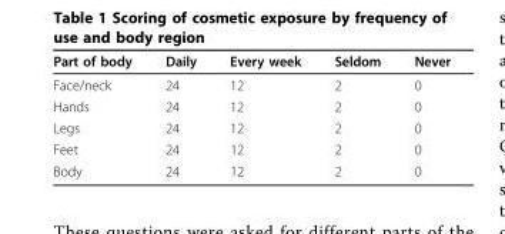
<table><thead><tr><td>Part of body</td><td>Daily</td><td>Every week</td><td>Seldom</td><td>Never</td></tr></thead><tbody><tr><td>Face/neck</td><td>24</td><td>12</td><td>2</td><td>0</td></tr><tr><td>Hands</td><td>24</td><td>12</td><td>2</td><td>0</td></tr><tr><td>Legs</td><td>24</td><td>12</td><td>2</td><td>0</td></tr><tr><td>Feet</td><td>24</td><td>12</td><td>2</td><td>0</td></tr><tr><td>Body</td><td>24</td><td>12</td><td>2</td><td>0</td></tr></tbody></table>